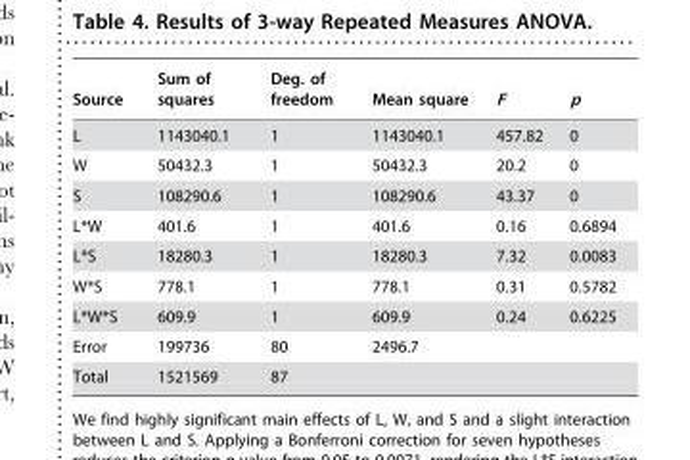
<table><thead><tr><td>Source</td><td>Sum of squares</td><td>Deg. of freedom</td><td>Mean square</td><td>F</td><td>p</td></tr></thead><tbody><tr><td>L</td><td>1143040.1</td><td>1</td><td>1143040.1</td><td>457.82</td><td>0</td></tr><tr><td>W</td><td>50432.3</td><td>1</td><td>50432.3</td><td>20.2</td><td>0</td></tr><tr><td>S</td><td>108290.6</td><td>1</td><td>108290.6</td><td>43.37</td><td>0</td></tr><tr><td>L*W</td><td>401.6</td><td>1</td><td>401.6</td><td>0.16</td><td>0.6894</td></tr><tr><td>L*S</td><td>18280.3</td><td>1</td><td>18280.3</td><td>7.32</td><td>0.0083</td></tr><tr><td>W*S</td><td>778.1</td><td>1</td><td>778.1</td><td>0.31</td><td>0.5782</td></tr><tr><td>L*W*S</td><td>609.9</td><td>1</td><td>609.9</td><td>0.24</td><td>0.6225</td></tr><tr><td>Error</td><td>199736</td><td>80</td><td>2496.7</td><td></td><td></td></tr><tr><td>Total</td><td>1521569</td><td>87</td><td></td><td></td><td></td></tr></tbody></table>